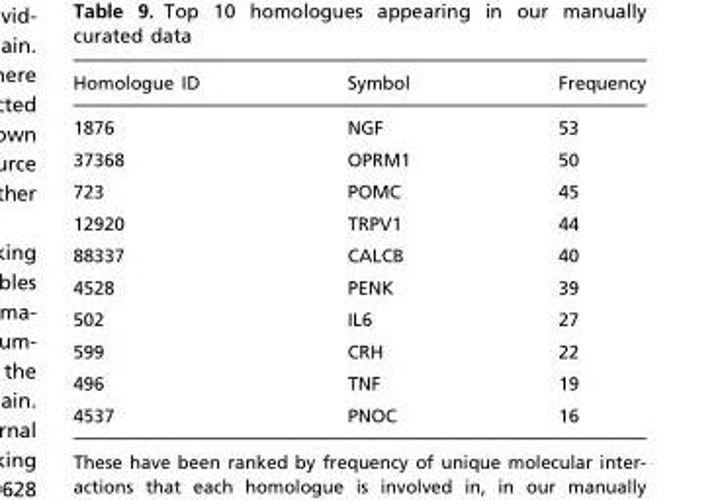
<table><thead><tr><td>Homologue ID</td><td>Symbol</td><td>Frequency</td></tr></thead><tbody><tr><td>1876</td><td>NGF</td><td>53</td></tr><tr><td>37368</td><td>OPRM1</td><td>50</td></tr><tr><td>723</td><td>POMC</td><td>45</td></tr><tr><td>12920</td><td>TRPV1</td><td>44</td></tr><tr><td>88337</td><td>CALCB</td><td>40</td></tr><tr><td>4528</td><td>PENK</td><td>39</td></tr><tr><td>502</td><td>IL6</td><td>27</td></tr><tr><td>599</td><td>CRH</td><td>22</td></tr><tr><td>496</td><td>TNF</td><td>19</td></tr><tr><td>4537</td><td>PNOC</td><td>16</td></tr></tbody></table>